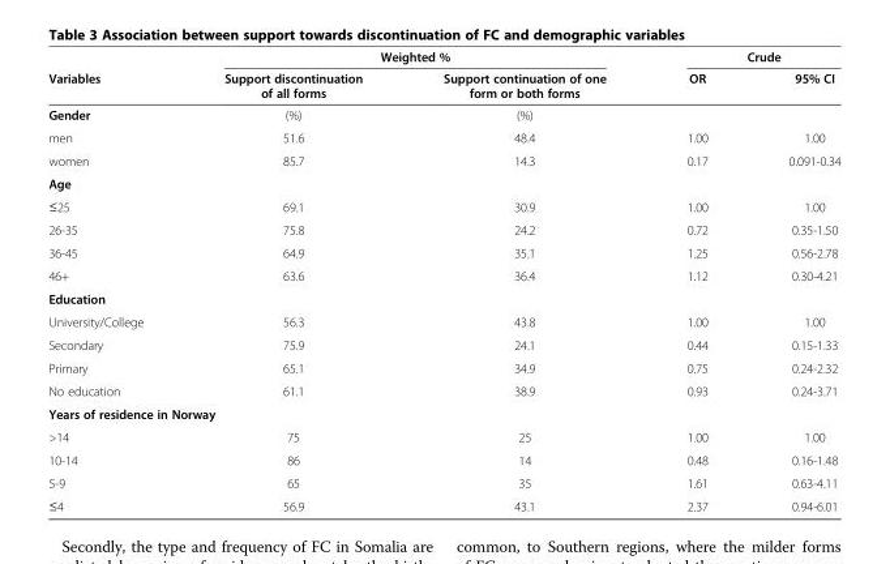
<table><thead><tr><td rowspan="2">Variables</td><td colspan="2">Weighted %</td><td colspan="2">Crude</td></tr><tr><td>Support discontinuation of all forms</td><td>Support continuation of one form or both forms</td><td>OR</td><td>95% CI</td></tr></thead><tbody><tr><td>Gender</td><td>(%)</td><td>(%)</td><td></td><td></td></tr><tr><td>men</td><td>51.6</td><td>48.4</td><td>1.00</td><td>1.00</td></tr><tr><td>women</td><td>85.7</td><td>14.3</td><td>0.17</td><td>0.091-0.34</td></tr><tr><td colspan="5">Age</td></tr><tr><td>≤25</td><td>69.1</td><td>30.9</td><td>1.00</td><td>1.00</td></tr><tr><td>26-35</td><td>75.8</td><td>24.2</td><td>0.72</td><td>0.35-1.50</td></tr><tr><td>36-45</td><td>64.9</td><td>35.1</td><td>1.25</td><td>0.56-2.78</td></tr><tr><td>46+</td><td>63.6</td><td>36.4</td><td>1.12</td><td>0.30-4.21</td></tr><tr><td colspan="5">Education</td></tr><tr><td>University/College</td><td>56.3</td><td>43.8</td><td>1.00</td><td>1.00</td></tr><tr><td>Secondary</td><td>75.9</td><td>24.1</td><td>0.44</td><td>0.15-1.33</td></tr><tr><td>Primary</td><td>65.1</td><td>34.9</td><td>0.75</td><td>0.24-2.32</td></tr><tr><td>No education</td><td>61.1</td><td>38.9</td><td>0.93</td><td>0.24-3.71</td></tr><tr><td colspan="5">Years of residence in Norway</td></tr><tr><td>&gt;14</td><td>75</td><td>25</td><td>1.00</td><td>1.00</td></tr><tr><td>10-14</td><td>86</td><td>14</td><td>0.48</td><td>0.16-1.48</td></tr><tr><td>5-9</td><td>65</td><td>35</td><td>1.61</td><td>0.63-4.11</td></tr><tr><td>≤4</td><td>56.9</td><td>43.1</td><td>2.37</td><td>0.94-6.01</td></tr></tbody></table>